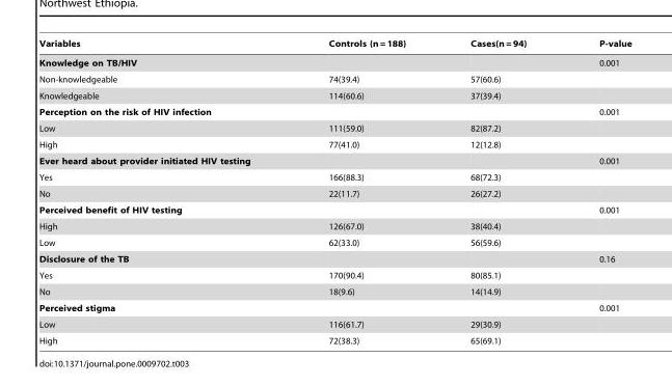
<table><thead><tr><td>Variables</td><td>Controls (n = 188)</td><td>Cases(n = 94)</td><td>P-value</td></tr></thead><tbody><tr><td>Knowledge on TB/HIV</td><td></td><td></td><td>0.001</td></tr><tr><td>Non-knowledgeable</td><td>74(39.4)</td><td>57(60.6)</td><td></td></tr><tr><td>Knowledgeable</td><td>114(60.6)</td><td>37(39.4)</td><td></td></tr><tr><td>Perception on the risk of HIV infection</td><td></td><td></td><td>0.001</td></tr><tr><td>Low</td><td>111(59.0)</td><td>82(87.2)</td><td></td></tr><tr><td>High</td><td>77(41.0)</td><td>12(12.8)</td><td></td></tr><tr><td>Ever heard about provider initiated HIV testing</td><td></td><td></td><td>0.001</td></tr><tr><td>Yes</td><td>166(88.3)</td><td>68(72.3)</td><td></td></tr><tr><td>No</td><td>22(11.7)</td><td>26(27.2)</td><td></td></tr><tr><td>Perceived benefit of HIV testing</td><td></td><td></td><td>0.001</td></tr><tr><td>High</td><td>126(67.0)</td><td>38(40.4)</td><td></td></tr><tr><td>Low</td><td>62(33.0)</td><td>56(59.6)</td><td></td></tr><tr><td>Disclosure of the TB</td><td></td><td></td><td>0.16</td></tr><tr><td>Yes</td><td>170(90.4)</td><td>80(85.1)</td><td></td></tr><tr><td>No</td><td>18(9.6)</td><td>14(14.9)</td><td></td></tr><tr><td>Perceived stigma</td><td></td><td></td><td>0.001</td></tr><tr><td>Low</td><td>116(61.7)</td><td>29(30.9)</td><td></td></tr><tr><td>High</td><td>72(38.3)</td><td>65(69.1)</td><td></td></tr></tbody></table>